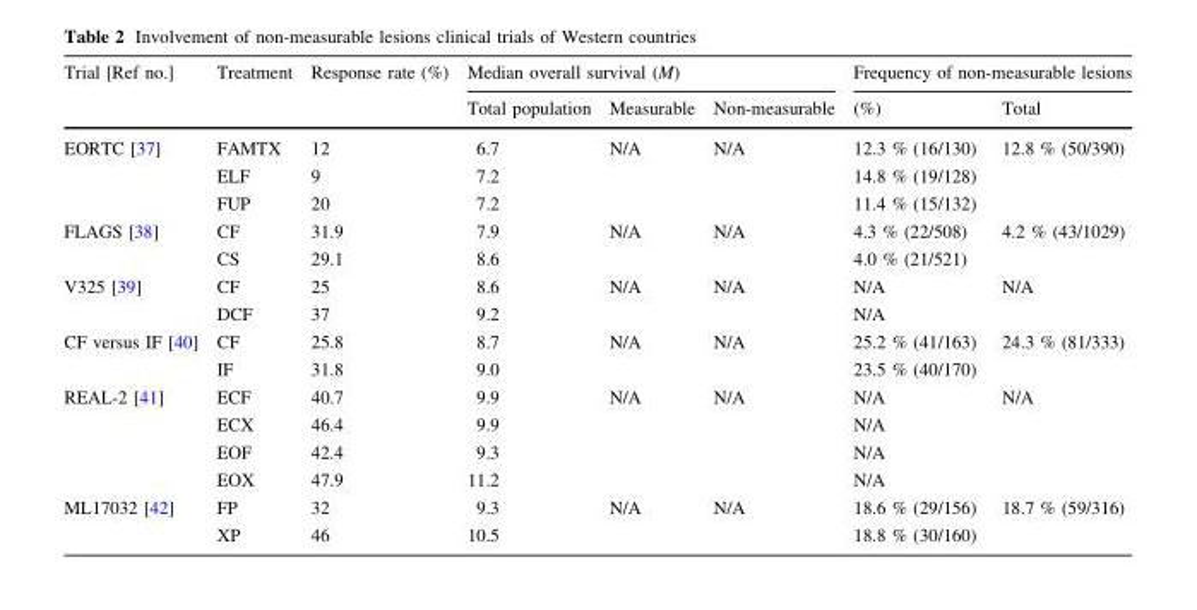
<table><thead><tr><td rowspan="2">Trial [Ref no.]</td><td rowspan="2">Treatment</td><td rowspan="2">Response rate (%)</td><td colspan="3">Median overall survival (M)</td><td colspan="2">Frequency of non-measurable lesions</td></tr><tr><td>Total population</td><td>Measurable</td><td>Non-measurable</td><td>(%)</td><td>Total</td></tr></thead><tbody><tr><td rowspan="3">EORTC [37]</td><td>FAMTX</td><td>12</td><td>6.7</td><td rowspan="3">N/A</td><td rowspan="3">N/A</td><td>12.3 % (16/130)</td><td rowspan="3">12.8 % (50/390)</td></tr><tr><td>ELF</td><td>9</td><td>7.2</td><td>14.8 % (19/128)</td></tr><tr><td>FUP</td><td>20</td><td>7.2</td><td>11.4 % (15/132)</td></tr><tr><td rowspan="2">FLAGS [38]</td><td>CF</td><td>31.9</td><td>7.9</td><td rowspan="2">N/A</td><td rowspan="2">N/A</td><td>4.3 % (22/508)</td><td rowspan="2">4.2 % (43/1029)</td></tr><tr><td>CS</td><td>29.1</td><td>8.6</td><td>4.0 % (21/521)</td></tr><tr><td rowspan="2">V325 [39]</td><td>CF</td><td>25</td><td>8.6</td><td rowspan="2">N/A</td><td rowspan="2">N/A</td><td>N/A</td><td rowspan="2">N/A</td></tr><tr><td>DCF</td><td>37</td><td>9.2</td><td>N/A</td></tr><tr><td rowspan="2">CF versus IF [40]</td><td>CF</td><td>25.8</td><td>8.7</td><td rowspan="2">N/A</td><td rowspan="2">N/A</td><td>25.2 % (41/163)</td><td rowspan="2">24.3 % (81/333)</td></tr><tr><td>IF</td><td>31.8</td><td>9.0</td><td>23.5 % (40/170)</td></tr><tr><td rowspan="4">REAL-2 [41]</td><td>ECF</td><td>40.7</td><td>9.9</td><td rowspan="4">N/A</td><td rowspan="4">N/A</td><td>N/A</td><td rowspan="4">N/A</td></tr><tr><td>ECX</td><td>46.4</td><td>9.9</td><td>N/A</td></tr><tr><td>EOF</td><td>42.4</td><td>9.3</td><td>N/A</td></tr><tr><td>EOX</td><td>47.9</td><td>11.2</td><td>N/A</td></tr><tr><td rowspan="2">ML17032 [42]</td><td>FP</td><td>32</td><td>9.3</td><td rowspan="2">N/A</td><td rowspan="2">N/A</td><td>18.6 % (29/156)</td><td rowspan="2">18.7 % (59/316)</td></tr><tr><td>XP</td><td>46</td><td>10.5</td><td>18.8 % (30/160)</td></tr></tbody></table>